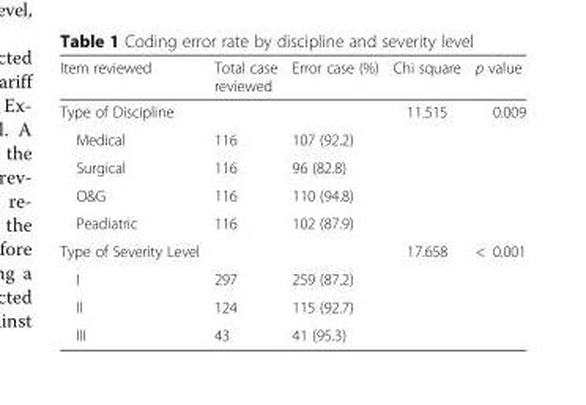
<table><thead><tr><td>Item reviewed</td><td>Total case reviewed</td><td>Error case (%)</td><td>Chi square</td><td>p value</td></tr></thead><tbody><tr><td>Type of Discipline</td><td></td><td></td><td>11.515</td><td>0.009</td></tr><tr><td>Medical</td><td>116</td><td>107 (92.2)</td><td></td><td></td></tr><tr><td>Surgical</td><td>116</td><td>96 (82.8)</td><td></td><td></td></tr><tr><td>O&amp;G</td><td>116</td><td>110 (94.8)</td><td></td><td></td></tr><tr><td>Peadiatric</td><td>116</td><td>102 (87.9)</td><td></td><td></td></tr><tr><td>Type of Severity Level</td><td></td><td></td><td>17.658</td><td>&lt; 0.001</td></tr><tr><td>I</td><td>297</td><td>259 (87.2)</td><td></td><td></td></tr><tr><td>II</td><td>124</td><td>115 (92.7)</td><td></td><td></td></tr><tr><td>III</td><td>43</td><td>41 (95.3)</td><td></td><td></td></tr></tbody></table>